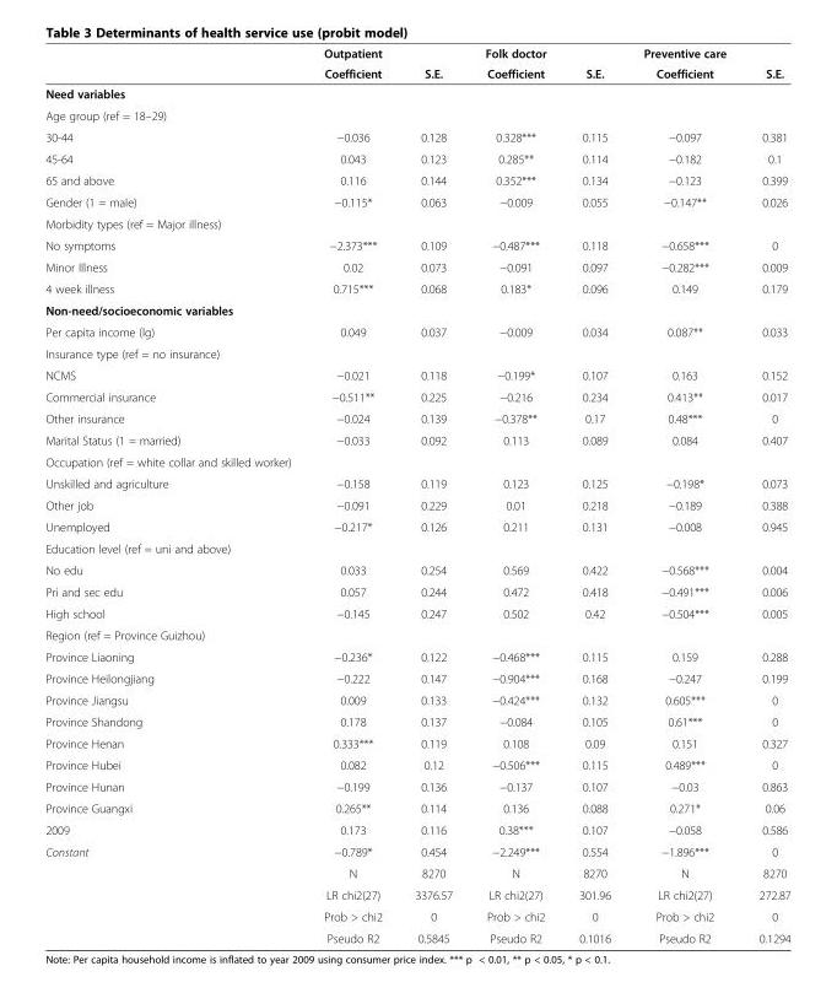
<table><thead><tr><td rowspan="2"></td><td rowspan="2">Outpatient Coefficient</td><td rowspan="2">S.E.</td><td rowspan="2">Folk doctor Coefficient</td><td rowspan="2">S.E.</td><td rowspan="2">Preventive care Coefficient</td><td rowspan="2">S.E.</td></tr><tr></tr></thead><tbody><tr><td colspan="7">Need variables</td></tr><tr><td colspan="7">Age group (ref = 18–29)</td></tr><tr><td>30-44</td><td>−0.036</td><td>0.128</td><td>0.328***</td><td>0.115</td><td>−0.097</td><td>0.381</td></tr><tr><td>45-64</td><td>0.043</td><td>0.123</td><td>0.285**</td><td>0.114</td><td>−0.182</td><td>0.1</td></tr><tr><td>65 and above</td><td>0.116</td><td>0.144</td><td>0.352***</td><td>0.134</td><td>−0.123</td><td>0.399</td></tr><tr><td>Gender (1 = male)</td><td>−0.115*</td><td>0.063</td><td>−0.009</td><td>0.055</td><td>−0.147**</td><td>0.026</td></tr><tr><td colspan="7">Morbidity types (ref = Major illness)</td></tr><tr><td>No symptoms</td><td>−2.373***</td><td>0.109</td><td>−0.487***</td><td>0.118</td><td>−0.658***</td><td>0</td></tr><tr><td>Minor Illness</td><td>0.02</td><td>0.073</td><td>−0.091</td><td>0.097</td><td>−0.282***</td><td>0.009</td></tr><tr><td>4 week illness</td><td>0.715***</td><td>0.068</td><td>0.183*</td><td>0.096</td><td>0.149</td><td>0.179</td></tr><tr><td colspan="7">Non-need/socioeconomic variables</td></tr><tr><td>Per capita income (lg)</td><td>0.049</td><td>0.037</td><td>−0.009</td><td>0.034</td><td>0.087**</td><td>0.033</td></tr><tr><td colspan="7">Insurance type (ref = no insurance)</td></tr><tr><td>NCMS</td><td>−0.021</td><td>0.118</td><td>−0.199*</td><td>0.107</td><td>0.163</td><td>0.152</td></tr><tr><td>Commercial insurance</td><td>−0.511**</td><td>0.225</td><td>−0.216</td><td>0.234</td><td>0.413**</td><td>0.017</td></tr><tr><td>Other insurance</td><td>−0.024</td><td>0.139</td><td>−0.378**</td><td>0.17</td><td>0.48***</td><td>0</td></tr><tr><td>Marital Status (1 = married)</td><td>−0.033</td><td>0.092</td><td>0.113</td><td>0.089</td><td>0.084</td><td>0.407</td></tr><tr><td colspan="7">Occupation (ref = white collar and skilled worker)</td></tr><tr><td>Unskilled and agriculture</td><td>−0.158</td><td>0.119</td><td>0.123</td><td>0.125</td><td>−0.198*</td><td>0.073</td></tr><tr><td>Other job</td><td>−0.091</td><td>0.229</td><td>0.01</td><td>0.218</td><td>−0.189</td><td>0.388</td></tr><tr><td>Unemployed</td><td>−0.217*</td><td>0.126</td><td>0.211</td><td>0.131</td><td>−0.008</td><td>0.945</td></tr><tr><td colspan="7">Education level (ref = uni and above)</td></tr><tr><td>No edu</td><td>0.033</td><td>0.254</td><td>0.569</td><td>0.422</td><td>−0.568***</td><td>0.004</td></tr><tr><td>Pri and sec edu</td><td>0.057</td><td>0.244</td><td>0.472</td><td>0.418</td><td>−0.491***</td><td>0.006</td></tr><tr><td>High school</td><td>−0.145</td><td>0.247</td><td>0.502</td><td>0.42</td><td>−0.504***</td><td>0.005</td></tr><tr><td colspan="7">Region (ref = Province Guizhou)</td></tr><tr><td>Province Liaoning</td><td>−0.236*</td><td>0.122</td><td>−0.468***</td><td>0.115</td><td>0.159</td><td>0.288</td></tr><tr><td>Province Heilongjiang</td><td>−0.222</td><td>0.147</td><td>−0.904***</td><td>0.168</td><td>−0.247</td><td>0.199</td></tr><tr><td>Province Jiangsu</td><td>0.009</td><td>0.133</td><td>−0.424***</td><td>0.132</td><td>0.605***</td><td>0</td></tr><tr><td>Province Shandong</td><td>0.178</td><td>0.137</td><td>−0.084</td><td>0.105</td><td>0.61***</td><td>0</td></tr><tr><td>Province Henan</td><td>0.333***</td><td>0.119</td><td>0.108</td><td>0.09</td><td>0.151</td><td>0.327</td></tr><tr><td>Province Hubei</td><td>0.082</td><td>0.12</td><td>−0.506***</td><td>0.115</td><td>0.489***</td><td>0</td></tr><tr><td>Province Hunan</td><td>−0.199</td><td>0.136</td><td>−0.137</td><td>0.107</td><td>−0.03</td><td>0.863</td></tr><tr><td>Province Guangxi</td><td>0.265**</td><td>0.114</td><td>0.136</td><td>0.088</td><td>0.271*</td><td>0.06</td></tr><tr><td>2009</td><td>0.173</td><td>0.116</td><td>0.38***</td><td>0.107</td><td>−0.058</td><td>0.586</td></tr><tr><td rowspan="5">Constant</td><td>−0.789*</td><td>0.454</td><td>−2.249***</td><td>0.554</td><td>−1.896***</td><td>0</td></tr><tr><td>N</td><td>8270</td><td>N</td><td>8270</td><td>N</td><td>8270</td></tr><tr><td>LR chi2(27)</td><td>3376.57</td><td>LR chi2(27)</td><td>301.96</td><td>LR chi2(27)</td><td>272.87</td></tr><tr><td>Prob &gt; chi2</td><td>0</td><td>Prob &gt; chi2</td><td>0</td><td>Prob &gt; chi2</td><td>0</td></tr><tr><td>Pseudo R2</td><td>0.5845</td><td>Pseudo R2</td><td>0.1016</td><td>Pseudo R2</td><td>0.1294</td></tr></tbody></table>